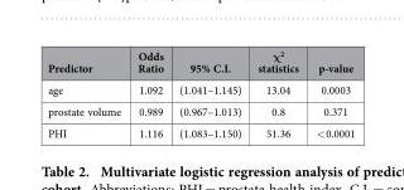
<table><thead><tr><td>Predictor</td><td>Odds Ratio</td><td>95% C.I.</td><td>χ<sup>2</sup> statistics</td><td>p-value</td></tr></thead><tbody><tr><td>age</td><td>1.092</td><td>(1.041–1.145)</td><td>13.04</td><td>0.0003</td></tr><tr><td>prostate volume</td><td>0.989</td><td>(0.967–1.013)</td><td>0.8</td><td>0.371</td></tr><tr><td>PHI</td><td>1.116</td><td>(1.083–1.150)</td><td>51.36</td><td>&lt; 0.0001</td></tr></tbody></table>